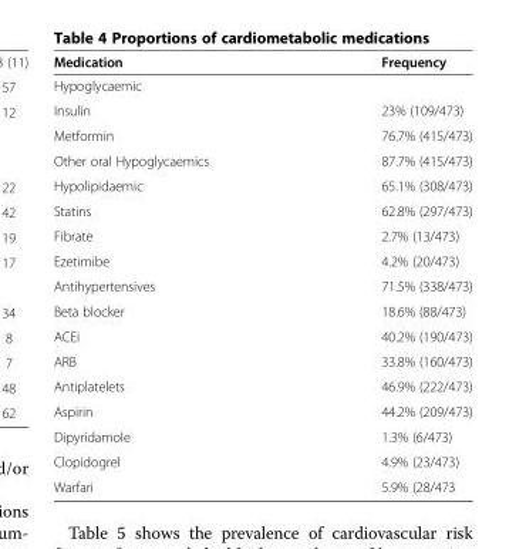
<table><thead><tr><td>Medication</td><td>Frequency</td></tr></thead><tbody><tr><td colspan="2">Hypoglycaemic</td></tr><tr><td>Insulin</td><td>23% (109/473)</td></tr><tr><td>Metformin</td><td>76.7% (415/473)</td></tr><tr><td>Other oral Hypoglycaemics</td><td>87.7% (415/473)</td></tr><tr><td>Hypolipidaemic</td><td>65.1% (308/473)</td></tr><tr><td>Statins</td><td>62.8% (297/473)</td></tr><tr><td>Fibrate</td><td>2.7% (13/473)</td></tr><tr><td>Ezetimibe</td><td>4.2% (20/473)</td></tr><tr><td>Antihypertensives</td><td>71.5% (338/473)</td></tr><tr><td>Beta blocker</td><td>18.6% (88/473)</td></tr><tr><td>ACEi</td><td>40.2% (190/473)</td></tr><tr><td>ARB</td><td>33.8% (160/473)</td></tr><tr><td>Antiplatelets</td><td>46.9% (222/473)</td></tr><tr><td>Aspirin</td><td>44.2% (209/473)</td></tr><tr><td>Dipyridamole</td><td>1.3% (6/473)</td></tr><tr><td>Clopidogrel</td><td>4.9% (23/473)</td></tr><tr><td>Warfari</td><td>5.9% (28/473</td></tr></tbody></table>